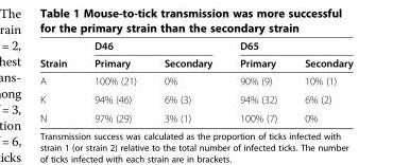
<table><thead><tr><td rowspan="2">Strain</td><td colspan="2">D46</td><td colspan="2">D65</td></tr><tr><td>Primary</td><td>Secondary</td><td>Primary</td><td>Secondary</td></tr></thead><tbody><tr><td>A</td><td>100% (21)</td><td>0%</td><td>90% (9)</td><td>10% (1)</td></tr><tr><td>K</td><td>94% (46)</td><td>6% (3)</td><td>94% (32)</td><td>6% (2)</td></tr><tr><td>N</td><td>97% (29)</td><td>3% (1)</td><td>100% (7)</td><td>0%</td></tr></tbody></table>